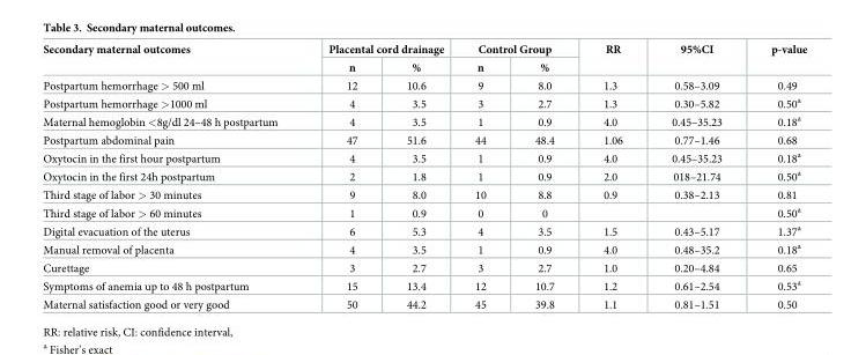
<table><thead><tr><td rowspan="2">Secondary maternal outcomes</td><td colspan="2">Placental cord drainage</td><td colspan="2">Control Group</td><td rowspan="2">RR</td><td rowspan="2">95%CI</td><td rowspan="2">p-value</td></tr><tr><td>n</td><td>%</td><td>n</td><td>%</td></tr></thead><tbody><tr><td>Postpartum hemorrhage &gt; 500 ml</td><td>12</td><td>10.6</td><td>9</td><td>8.0</td><td>1.3</td><td>0.58–3.09</td><td>0.49</td></tr><tr><td>Postpartum hemorrhage &gt;1000 ml</td><td>4</td><td>3.5</td><td>3</td><td>2.7</td><td>1.3</td><td>0.30–5.82</td><td>0.50<sup>a</sup></td></tr><tr><td>Maternal hemoglobin &lt;8g/dl 24–48 h postpartum</td><td>4</td><td>3.5</td><td>1</td><td>0.9</td><td>4.0</td><td>0.45–35.23</td><td>0.18<sup>a</sup></td></tr><tr><td>Postpartum abdominal pain</td><td>47</td><td>51.6</td><td>44</td><td>48.4</td><td>1.06</td><td>0.77–1.46</td><td>0.68</td></tr><tr><td>Oxytocin in the first hour postpartum</td><td>4</td><td>3.5</td><td>1</td><td>0.9</td><td>4.0</td><td>0.45–35.23</td><td>0.18<sup>a</sup></td></tr><tr><td>Oxytocin in the first 24h postpartum</td><td>2</td><td>1.8</td><td>1</td><td>0.9</td><td>2.0</td><td>018–21.74</td><td>0.50<sup>a</sup></td></tr><tr><td>Third stage of labor &gt; 30 minutes</td><td>9</td><td>8.0</td><td>10</td><td>8.8</td><td>0.9</td><td>0.38–2.13</td><td>0.81</td></tr><tr><td>Third stage of labor &gt; 60 minutes</td><td>1</td><td>0.9</td><td>0</td><td>0</td><td></td><td></td><td>0.50<sup>a</sup></td></tr><tr><td>Digital evacuation of the uterus</td><td>6</td><td>5.3</td><td>4</td><td>3.5</td><td>1.5</td><td>0.43–5.17</td><td>1.37<sup>a</sup></td></tr><tr><td>Manual removal of placenta</td><td>4</td><td>3.5</td><td>1</td><td>0.9</td><td>4.0</td><td>0.48–35.2</td><td>0.18<sup>a</sup></td></tr><tr><td>Curettage</td><td>3</td><td>2.7</td><td>3</td><td>2.7</td><td>1.0</td><td>0.20–4.84</td><td>0.65</td></tr><tr><td>Symptoms of anemia up to 48 h postpartum</td><td>15</td><td>13.4</td><td>12</td><td>10.7</td><td>1.2</td><td>0.61–2.54</td><td>0.53<sup>a</sup></td></tr><tr><td>Maternal satisfaction good or very good</td><td>50</td><td>44.2</td><td>45</td><td>39.8</td><td>1.1</td><td>0.81–1.51</td><td>0.50</td></tr></tbody></table>